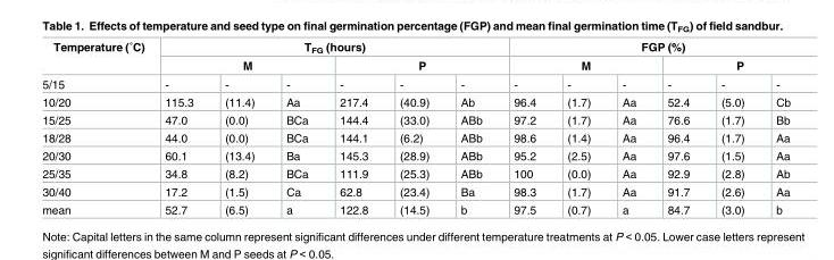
<table><thead><tr><td rowspan="3">Temperature (˚C) 5/15</td><td colspan="6">T<sub>FG</sub> (hours)</td><td colspan="6">FGP (%)</td></tr><tr><td colspan="3">M</td><td colspan="3">P</td><td colspan="3">M</td><td colspan="3">P</td></tr><tr><td>-</td><td>-</td><td>-</td><td>-</td><td>-</td><td>-</td><td>-</td><td>-</td><td>-</td><td>-</td><td>-</td><td>-</td></tr></thead><tbody><tr><td>10/20</td><td>115.3</td><td>(11.4)</td><td>Aa</td><td>217.4</td><td>(40.9)</td><td>Ab</td><td>96.4</td><td>(1.7)</td><td>Aa</td><td>52.4</td><td>(5.0)</td><td>Cb</td></tr><tr><td>15/25</td><td>47.0</td><td>(0.0)</td><td>BCa</td><td>144.4</td><td>(33.0)</td><td>ABb</td><td>97.2</td><td>(1.7)</td><td>Aa</td><td>76.6</td><td>(1.7)</td><td>Bb</td></tr><tr><td>18/28</td><td>44.0</td><td>(0.0)</td><td>BCa</td><td>144.1</td><td>(6.2)</td><td>ABb</td><td>98.6</td><td>(1.4)</td><td>Aa</td><td>96.4</td><td>(1.7)</td><td>Aa</td></tr><tr><td>20/30</td><td>60.1</td><td>(13.4)</td><td>Ba</td><td>145.3</td><td>(28.9)</td><td>ABb</td><td>95.2</td><td>(2.5)</td><td>Aa</td><td>97.6</td><td>(1.5)</td><td>Aa</td></tr><tr><td>25/35</td><td>34.8</td><td>(8.2)</td><td>BCa</td><td>111.9</td><td>(25.3)</td><td>ABb</td><td>100</td><td>(0.0)</td><td>Aa</td><td>92.9</td><td>(2.8)</td><td>Ab</td></tr><tr><td>30/40</td><td>17.2</td><td>(1.5)</td><td>Ca</td><td>62.8</td><td>(23.4)</td><td>Ba</td><td>98.3</td><td>(1.7)</td><td>Aa</td><td>91.7</td><td>(2.6)</td><td>Aa</td></tr><tr><td>mean</td><td>52.7</td><td>(6.5)</td><td>a</td><td>122.8</td><td>(14.5)</td><td>b</td><td>97.5</td><td>(0.7)</td><td>a</td><td>84.7</td><td>(3.0)</td><td>b</td></tr></tbody></table>